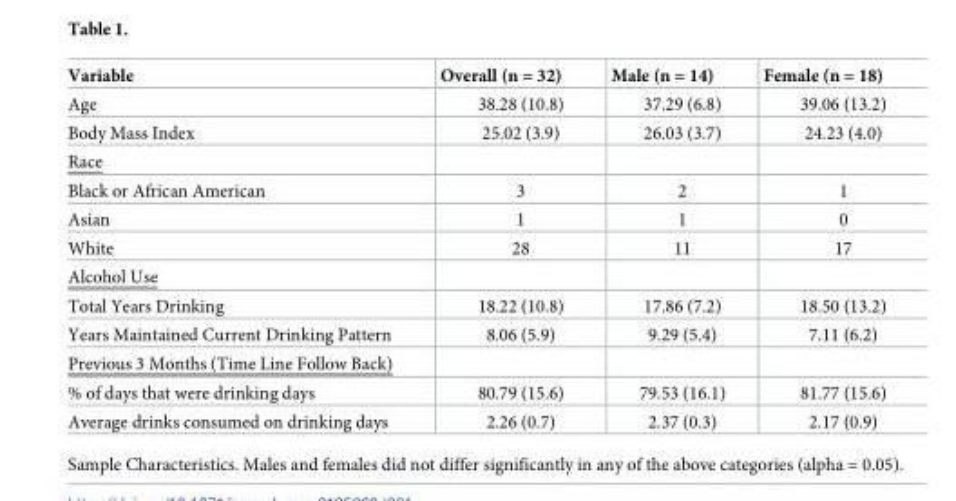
<table><thead><tr><td>Variable</td><td>Overall (n = 32)</td><td>Male (n = 14)</td><td>Female (n = 18)</td></tr></thead><tbody><tr><td>Age</td><td>38.28 (10.8)</td><td>37.29 (6.8)</td><td>39.06 (13.2)</td></tr><tr><td>Body Mass Index</td><td>25.02 (3.9)</td><td>26.03 (3.7)</td><td>24.23 (4.0)</td></tr><tr><td colspan="4">Race</td></tr><tr><td>Black or African American</td><td>3</td><td>2</td><td>1</td></tr><tr><td>Asian</td><td>1</td><td>1</td><td>0</td></tr><tr><td>White</td><td>28</td><td>11</td><td>17</td></tr><tr><td colspan="4">Alcohol Use</td></tr><tr><td>Total Years Drinking</td><td>18.22 (10.8)</td><td>17.86 (7.2)</td><td>18.50 (13.2)</td></tr><tr><td>Years Maintained Current Drinking Pattern</td><td>8.06 (5.9)</td><td>9.29 (5.4)</td><td>7.11 (6.2)</td></tr><tr><td colspan="4">Previous 3 Months (Time Line Follow Back)</td></tr><tr><td>% of days that were drinking days</td><td>80.79 (15.6)</td><td>79.53 (16.1)</td><td>81.77 (15.6)</td></tr><tr><td>Average drinks consumed on drinking days</td><td>2.26 (0.7)</td><td>2.37 (0.3)</td><td>2.17 (0.9)</td></tr></tbody></table>